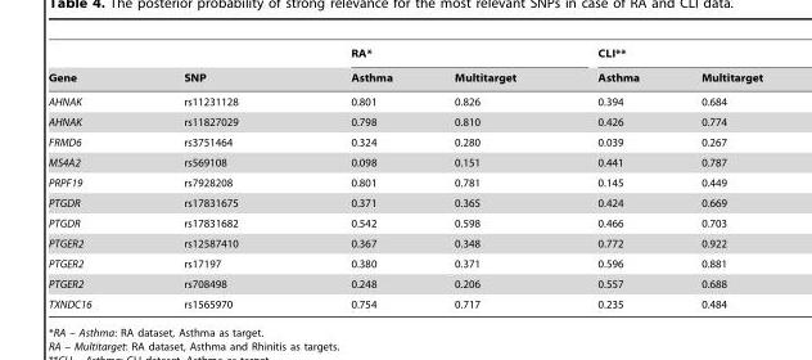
<table><thead><tr><td rowspan="2">Gene</td><td rowspan="2">SNP</td><td colspan="2">RA*</td><td colspan="2">CLI**</td></tr><tr><td>Asthma</td><td>Multitarget</td><td>Asthma</td><td>Multitarget</td></tr></thead><tbody><tr><td>AHNAK</td><td>rs11231128</td><td>0.801</td><td>0.826</td><td>0.394</td><td>0.684</td></tr><tr><td>AHNAK</td><td>rs11827029</td><td>0.798</td><td>0.810</td><td>0.426</td><td>0.774</td></tr><tr><td>FRMD6</td><td>rs3751464</td><td>0.324</td><td>0.280</td><td>0.039</td><td>0.267</td></tr><tr><td>MS4A2</td><td>rs569108</td><td>0.098</td><td>0.151</td><td>0.441</td><td>0.787</td></tr><tr><td>PRPF19</td><td>rs7928208</td><td>0.801</td><td>0.781</td><td>0.145</td><td>0.449</td></tr><tr><td>PTGDR</td><td>rs17831675</td><td>0.371</td><td>0.365</td><td>0.424</td><td>0.669</td></tr><tr><td>PTGDR</td><td>rs17831682</td><td>0.542</td><td>0.598</td><td>0.466</td><td>0.703</td></tr><tr><td>PTGER2</td><td>rs12587410</td><td>0.367</td><td>0.348</td><td>0.772</td><td>0.922</td></tr><tr><td>PTGER2</td><td>rs17197</td><td>0.380</td><td>0.371</td><td>0.596</td><td>0.881</td></tr><tr><td>PTGER2</td><td>rs708498</td><td>0.248</td><td>0.206</td><td>0.557</td><td>0.688</td></tr><tr><td>TXNDC16</td><td>rs1565970</td><td>0.754</td><td>0.717</td><td>0.235</td><td>0.484</td></tr></tbody></table>